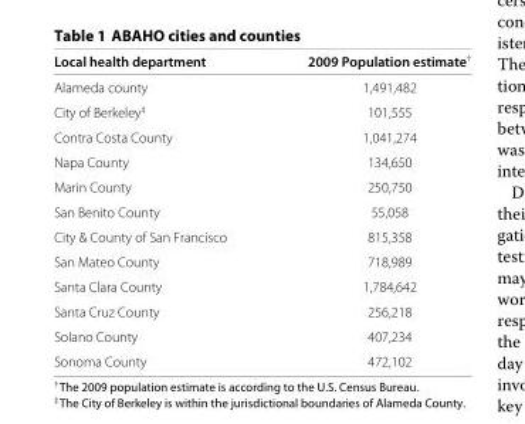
<table><thead><tr><td>Local health department</td><td>2009 Population estimate<sup>†</sup></td></tr></thead><tbody><tr><td>Alameda county</td><td>1,491,482</td></tr><tr><td>City of Berkeley‡</td><td>101,555</td></tr><tr><td>Contra Costa County</td><td>1,041,274</td></tr><tr><td>Napa County</td><td>134,650</td></tr><tr><td>Marin County</td><td>250,750</td></tr><tr><td>San Benito County</td><td>55,058</td></tr><tr><td>City &amp; County of San Francisco</td><td>815,358</td></tr><tr><td>San Mateo County</td><td>718,989</td></tr><tr><td>Santa Clara County</td><td>1,784,642</td></tr><tr><td>Santa Cruz County</td><td>256,218</td></tr><tr><td>Solano County</td><td>407,234</td></tr><tr><td>Sonoma County</td><td>472,102</td></tr></tbody></table>